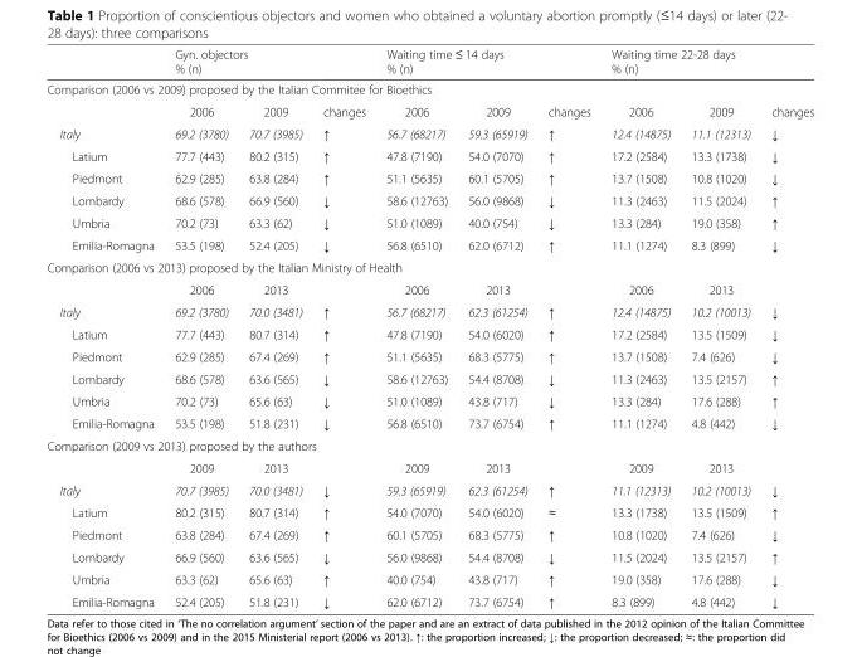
<table><thead><tr><td></td><td colspan="2">Gyn. objectors % (n)</td><td></td><td colspan="2">Waiting time ≤ 14 days % (n)</td><td></td><td colspan="2">Waiting time 22-28 days % (n)</td><td></td></tr><tr><td colspan="10">Comparison (2006 vs 2009) proposed by the Italian Commitee for Bioethics</td></tr><tr><td></td><td>2006</td><td>2009</td><td>changes</td><td>2006</td><td>2009</td><td>changes</td><td>2006</td><td>2009</td><td>changes</td></tr></thead><tbody><tr><td>Italy</td><td>69.2 (3780)</td><td>70.7 (3985)</td><td>↑</td><td>56.7 (68217)</td><td>59.3 (65919)</td><td>↑</td><td>12.4 (14875)</td><td>11.1 (12313)</td><td>↓</td></tr><tr><td>Latium</td><td>77.7 (443)</td><td>80.2 (315)</td><td>↑</td><td>47.8 (7190)</td><td>54.0 (7070)</td><td>↑</td><td>17.2 (2584)</td><td>13.3 (1738)</td><td>↓</td></tr><tr><td>Piedmont</td><td>62.9 (285)</td><td>63.8 (284)</td><td>↑</td><td>51.1 (5635)</td><td>60.1 (5705)</td><td>↑</td><td>13.7 (1508)</td><td>10.8 (1020)</td><td>↓</td></tr><tr><td>Lombardy</td><td>68.6 (578)</td><td>66.9 (560)</td><td>↓</td><td>58.6 (12763)</td><td>56.0 (9868)</td><td>↓</td><td>11.3 (2463)</td><td>11.5 (2024)</td><td>↑</td></tr><tr><td>Umbria</td><td>70.2 (73)</td><td>63.3 (62)</td><td>↓</td><td>51.0 (1089)</td><td>40.0 (754)</td><td>↓</td><td>13.3 (284)</td><td>19.0 (358)</td><td>↑</td></tr><tr><td>Emilia-Romagna</td><td>53.5 (198)</td><td>52.4 (205)</td><td>↓</td><td>56.8 (6510)</td><td>62.0 (6712)</td><td>↑</td><td>11.1 (1274)</td><td>8.3 (899)</td><td>↓</td></tr><tr><td colspan="10">Comparison (2006 vs 2013) proposed by the Italian Ministry of Health</td></tr><tr><td></td><td>2006</td><td>2013</td><td></td><td>2006</td><td>2013</td><td></td><td>2006</td><td>2013</td><td></td></tr><tr><td>Italy</td><td>69.2 (3780)</td><td>70.0 (3481)</td><td>↑</td><td>56.7 (68217)</td><td>62.3 (61254)</td><td>↑</td><td>12.4 (14875)</td><td>10.2 (10013)</td><td>↓</td></tr><tr><td>Latium</td><td>77.7 (443)</td><td>80.7 (314)</td><td>↑</td><td>47.8 (7190)</td><td>54.0 (6020)</td><td>↑</td><td>17.2 (2584)</td><td>13.5 (1509)</td><td>↓</td></tr><tr><td>Piedmont</td><td>62.9 (285)</td><td>67.4 (269)</td><td>↑</td><td>51.1 (5635)</td><td>68.3 (5775)</td><td>↑</td><td>13.7 (1508)</td><td>7.4 (626)</td><td>↓</td></tr><tr><td>Lombardy</td><td>68.6 (578)</td><td>63.6 (565)</td><td>↓</td><td>58.6 (12763)</td><td>54.4 (8708)</td><td>↓</td><td>11.3 (2463)</td><td>13.5 (2157)</td><td>↑</td></tr><tr><td>Umbria</td><td>70.2 (73)</td><td>65.6 (63)</td><td>↓</td><td>51.0 (1089)</td><td>43.8 (717)</td><td>↓</td><td>13.3 (284)</td><td>17.6 (288)</td><td>↑</td></tr><tr><td>Emilia-Romagna</td><td>53.5 (198)</td><td>51.8 (231)</td><td>↓</td><td>56.8 (6510)</td><td>73.7 (6754)</td><td>↑</td><td>11.1 (1274)</td><td>4.8 (442)</td><td>↓</td></tr><tr><td colspan="10">Comparison (2009 vs 2013) proposed by the authors</td></tr><tr><td></td><td>2009</td><td>2013</td><td></td><td>2009</td><td>2013</td><td></td><td>2009</td><td>2013</td><td></td></tr><tr><td>Italy</td><td>70.7 (3985)</td><td>70.0 (3481)</td><td>↓</td><td>59.3 (65919)</td><td>62.3 (61254)</td><td>↑</td><td>11.1 (12313)</td><td>10.2 (10013)</td><td>↓</td></tr><tr><td>Latium</td><td>80.2 (315)</td><td>80.7 (314)</td><td>↑</td><td>54.0 (7070)</td><td>54.0 (6020)</td><td>≈</td><td>13.3 (1738)</td><td>13.5 (1509)</td><td>↑</td></tr><tr><td>Piedmont</td><td>63.8 (284)</td><td>67.4 (269)</td><td>↑</td><td>60.1 (5705)</td><td>68.3 (5775)</td><td>↑</td><td>10.8 (1020)</td><td>7.4 (626)</td><td>↓</td></tr><tr><td>Lombardy</td><td>66.9 (560)</td><td>63.6 (565)</td><td>↓</td><td>56.0 (9868)</td><td>54.4 (8708)</td><td>↓</td><td>11.5 (2024)</td><td>13.5 (2157)</td><td>↑</td></tr><tr><td>Umbria</td><td>63.3 (62)</td><td>65.6 (63)</td><td>↑</td><td>40.0 (754)</td><td>43.8 (717)</td><td>↑</td><td>19.0 (358)</td><td>17.6 (288)</td><td>↓</td></tr><tr><td>Emilia-Romagna</td><td>52.4 (205)</td><td>51.8 (231)</td><td>↓</td><td>62.0 (6712)</td><td>73.7 (6754)</td><td>↑</td><td>8.3 (899)</td><td>4.8 (442)</td><td>↓</td></tr></tbody></table>